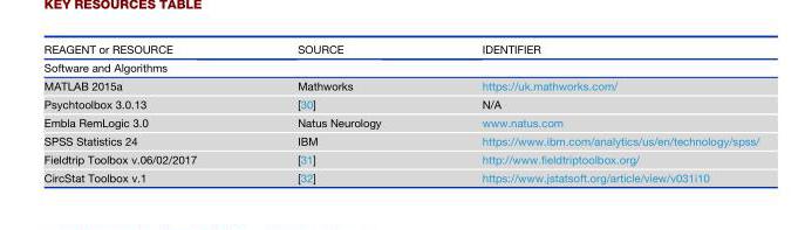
<table><thead><tr><td>REAGENT or RESOURCE</td><td>SOURCE</td><td>IDENTIFIER</td></tr></thead><tbody><tr><td colspan="3">Software and Algorithms</td></tr><tr><td>MATLAB 2015a</td><td>Mathworks</td><td>https://uk.mathworks.com/</td></tr><tr><td>Psychtoolbox 3.0.13</td><td>[30]</td><td>N/A</td></tr><tr><td>Embla RemLogic 3.0</td><td>Natus Neurology</td><td>www.natus.com</td></tr><tr><td>SPSS Statistics 24</td><td>IBM</td><td>https://www.ibm.com/analytics/us/en/technology/spss/</td></tr><tr><td>Fieldtrip Toolbox v.06/02/2017</td><td>[31]</td><td>http://www.fieldtriptoolbox.org/</td></tr><tr><td>CircStat Toolbox v.1</td><td>[32]</td><td>https://www.jstatsoft.org/article/view/v031i10</td></tr></tbody></table>